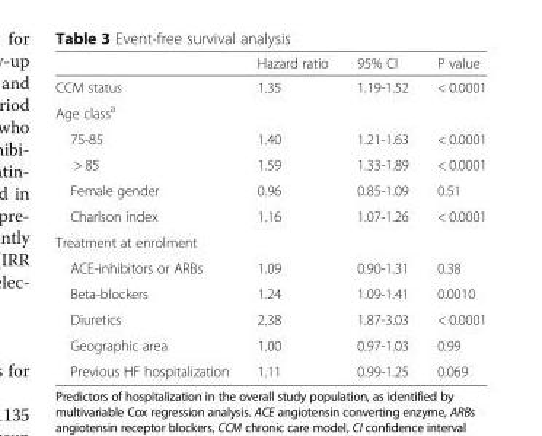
<table><thead><tr><td></td><td>Hazard ratio</td><td>95% CI</td><td>P value</td></tr></thead><tbody><tr><td>CCM status</td><td>1.35</td><td>1.19-1.52</td><td>&lt; 0.0001</td></tr><tr><td colspan="4">Age class<sup>a</sup></td></tr><tr><td>75-85</td><td>1.40</td><td>1.21-1.63</td><td>&lt; 0.0001</td></tr><tr><td>&gt; 85</td><td>1.59</td><td>1.33-1.89</td><td>&lt; 0.0001</td></tr><tr><td>Female gender</td><td>0.96</td><td>0.85-1.09</td><td>0.51</td></tr><tr><td>Charlson index</td><td>1.16</td><td>1.07-1.26</td><td>&lt; 0.0001</td></tr><tr><td colspan="4">Treatment at enrolment</td></tr><tr><td>ACE-inhibitors or ARBs</td><td>1.09</td><td>0.90-1.31</td><td>0.38</td></tr><tr><td>Beta-blockers</td><td>1.24</td><td>1.09-1.41</td><td>0.0010</td></tr><tr><td>Diuretics</td><td>2.38</td><td>1.87-3.03</td><td>&lt; 0.0001</td></tr><tr><td>Geographic area</td><td>1.00</td><td>0.97-1.03</td><td>0.99</td></tr><tr><td>Previous HF hospitalization</td><td>1.11</td><td>0.99-1.25</td><td>0.069</td></tr></tbody></table>